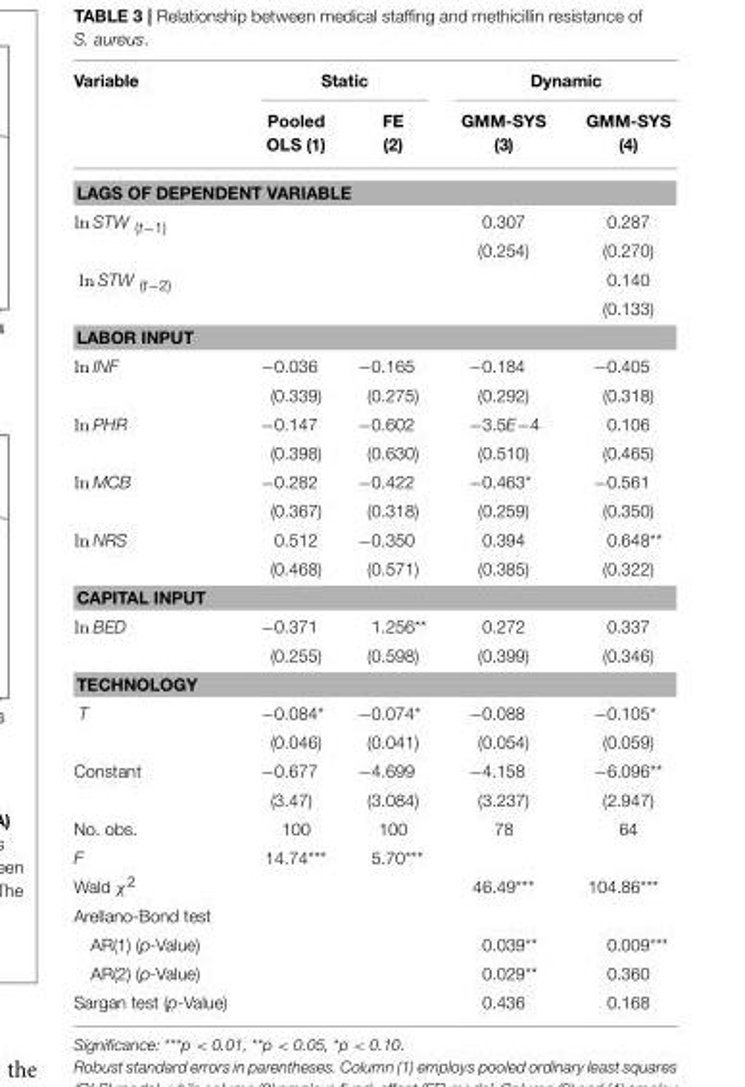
<table><thead><tr><td rowspan="2">Variable</td><td colspan="2">Static</td><td colspan="2">Dynamic</td></tr><tr><td>Pooled OLS (1)</td><td>FE (2)</td><td>GMM-SYS (3)</td><td>GMM-SYS (4)</td></tr></thead><tbody><tr><td colspan="5">LAGS OF DEPENDENT VARIABLE</td></tr><tr><td rowspan="2">ln STW <sub>(t−1)</sub></td><td></td><td></td><td>0.307</td><td>0.287</td></tr><tr><td></td><td></td><td>(0.254)</td><td>(0.270)</td></tr><tr><td rowspan="2">ln STW <sub>(t−2)</sub></td><td></td><td></td><td></td><td>0.140</td></tr><tr><td></td><td></td><td></td><td>(0.133)</td></tr><tr><td colspan="5">LABOR INPUT</td></tr><tr><td rowspan="2">ln INF</td><td>−0.036</td><td>−0.165</td><td>−0.184</td><td>−0.405</td></tr><tr><td>(0.339)</td><td>(0.275)</td><td>(0.292)</td><td>(0.318)</td></tr><tr><td rowspan="2">ln PHR</td><td>−0.147</td><td>−0.602</td><td>−3.5E−4</td><td>0.106</td></tr><tr><td>(0.398)</td><td>(0.630)</td><td>(0.510)</td><td>(0.465)</td></tr><tr><td rowspan="2">ln MCB</td><td>−0.282</td><td>−0.422</td><td>−0.463*</td><td>−0.561</td></tr><tr><td>(0.367)</td><td>(0.318)</td><td>(0.259)</td><td>(0.350)</td></tr><tr><td rowspan="2">ln NRS</td><td>0.512</td><td>−0.350</td><td>0.394</td><td>0.648**</td></tr><tr><td>(0.468)</td><td>(0.571)</td><td>(0.385)</td><td>(0.322)</td></tr><tr><td colspan="5">CAPITAL INPUT</td></tr><tr><td rowspan="2">ln BED</td><td>−0.371</td><td>1.256**</td><td>0.272</td><td>0.337</td></tr><tr><td>(0.255)</td><td>(0.598)</td><td>(0.399)</td><td>(0.346)</td></tr><tr><td colspan="5">TECHNOLOGY</td></tr><tr><td rowspan="2">T</td><td>−0.084*</td><td>−0.074*</td><td>−0.088</td><td>−0.105*</td></tr><tr><td>(0.046)</td><td>(0.041)</td><td>(0.054)</td><td>(0.059)</td></tr><tr><td rowspan="2">Constant</td><td>−0.677</td><td>−4.699</td><td>−4.158</td><td>−6.096**</td></tr><tr><td>(3.47)</td><td>(3.084)</td><td>(3.237)</td><td>(2.947)</td></tr><tr><td>No. obs.</td><td>100</td><td>100</td><td>78</td><td>64</td></tr><tr><td>F</td><td>14.74***</td><td>5.70***</td><td></td><td></td></tr><tr><td>Wald χ<sup>2</sup></td><td></td><td></td><td>46.49***</td><td>104.86***</td></tr><tr><td colspan="5">Arellano-Bond test</td></tr><tr><td>AR(1) (p-Value)</td><td></td><td></td><td>0.039**</td><td>0.009***</td></tr><tr><td>AR(2) (p-Value)</td><td></td><td></td><td>0.029**</td><td>0.360</td></tr><tr><td>Sargan test (p-Value)</td><td></td><td></td><td>0.436</td><td>0.168</td></tr></tbody></table>